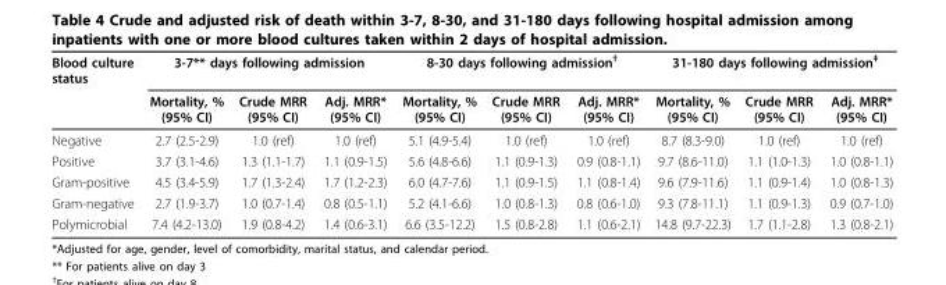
<table><thead><tr><td rowspan="2">Blood culture status</td><td colspan="3">3-7** days following admission</td><td colspan="3">8-30 days following admission<sup>†</sup></td><td colspan="3">31-180 days following admission<sup>‡</sup></td></tr><tr><td>Mortality, % (95% CI)</td><td>Crude MRR (95% CI)</td><td>Adj. MRR* (95% CI)</td><td>Mortality, % (95% CI)</td><td>Crude MRR (95% CI)</td><td>Adj. MRR* (95% CI)</td><td>Mortality, % (95% CI)</td><td>Crude MRR (95% CI)</td><td>Adj. MRR* (95% CI)</td></tr></thead><tbody><tr><td>Negative</td><td>2.7 (2.5-2.9)</td><td>1.0 (ref)</td><td>1.0 (ref)</td><td>5.1 (4.9-5.4)</td><td>1.0 (ref)</td><td>1.0 (ref)</td><td>8.7 (8.3-9.0)</td><td>1.0 (ref)</td><td>1.0 (ref)</td></tr><tr><td>Positive</td><td>3.7 (3.1-4.6)</td><td>1.3 (1.1-1.7)</td><td>1.1 (0.9-1.5)</td><td>5.6 (4.8-6.6)</td><td>1.1 (0.9-1.3)</td><td>0.9 (0.8-1.1)</td><td>9.7 (8.6-11.0)</td><td>1.1 (1.0-1.3)</td><td>1.0 (0.8-1.1)</td></tr><tr><td>Gram-positive</td><td>4.5 (3.4-5.9)</td><td>1.7 (1.3-2.4)</td><td>1.7 (1.2-2.3)</td><td>6.0 (4.7-7.6)</td><td>1.1 (0.9-1.5)</td><td>1.1 (0.8-1.4)</td><td>9.6 (7.9-11.6)</td><td>1.1 (0.9-1.4)</td><td>1.0 (0.8-1.3)</td></tr><tr><td>Gram-negative</td><td>2.7 (1.9-3.7)</td><td>1.0 (0.7-1.4)</td><td>0.8 (0.5-1.1)</td><td>5.2 (4.1-6.6)</td><td>1.0 (0.8-1.3)</td><td>0.8 (0.6-1.0)</td><td>9.3 (7.8-11.1)</td><td>1.1 (0.9-1.3)</td><td>0.9 (0.7-1.0)</td></tr><tr><td>Polymicrobial</td><td>7.4 (4.2-13.0)</td><td>1.9 (0.8-4.2)</td><td>1.4 (0.6-3.1)</td><td>6.6 (3.5-12.2)</td><td>1.5 (0.8-2.8)</td><td>1.1 (0.6-2.1)</td><td>14.8 (9.7-22.3)</td><td>1.7 (1.1-2.8)</td><td>1.3 (0.8-2.1)</td></tr></tbody></table>